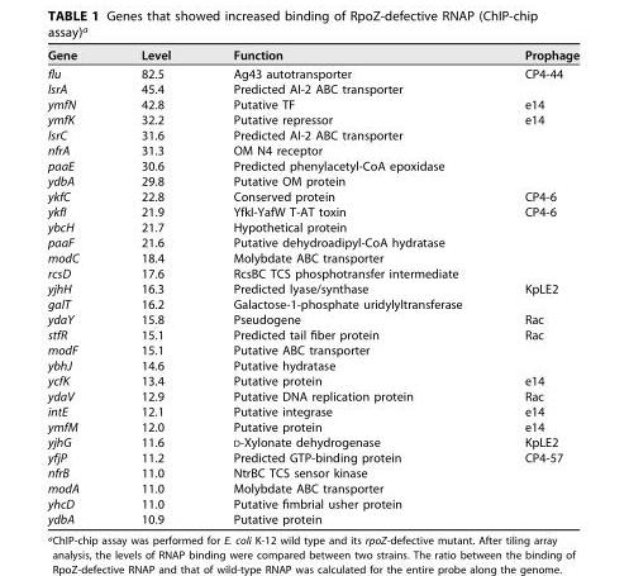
<table><thead><tr><td>Gene</td><td>Level</td><td>Function</td><td>Prophage</td></tr></thead><tbody><tr><td>flu</td><td>82.5</td><td>Ag43 autotransporter</td><td>CP4-44</td></tr><tr><td>lsrA</td><td>45.4</td><td>Predicted AI-2 ABC transporter</td><td></td></tr><tr><td>ymfN</td><td>42.8</td><td>Putative TF</td><td>e14</td></tr><tr><td>ymfK</td><td>32.2</td><td>Putative repressor</td><td>e14</td></tr><tr><td>lsrC</td><td>31.6</td><td>Predicted AI-2 ABC transporter</td><td></td></tr><tr><td>nfrA</td><td>31.3</td><td>OM N4 receptor</td><td></td></tr><tr><td>paaE</td><td>30.6</td><td>Predicted phenylacetyl-CoA epoxidase</td><td></td></tr><tr><td>ydbA</td><td>29.8</td><td>Putative OM protein</td><td></td></tr><tr><td>ykfC</td><td>22.8</td><td>Conserved protein</td><td>CP4-6</td></tr><tr><td>ykfI</td><td>21.9</td><td>YfkI-YafW T-AT toxin</td><td>CP4-6</td></tr><tr><td>ybcH</td><td>21.7</td><td>Hypothetical protein</td><td></td></tr><tr><td>paaF</td><td>21.6</td><td>Putative dehydroadipyl-CoA hydratase</td><td></td></tr><tr><td>modC</td><td>18.4</td><td>Molybdate ABC transporter</td><td></td></tr><tr><td>rcsD</td><td>17.6</td><td>RcsBC TCS phosphotransfer intermediate</td><td></td></tr><tr><td>yjhH</td><td>16.3</td><td>Predicted lyase/synthase</td><td>KpLE2</td></tr><tr><td>galT</td><td>16.2</td><td>Galactose-1-phosphate uridylyltransferase</td><td></td></tr><tr><td>ydaY</td><td>15.8</td><td>Pseudogene</td><td>Rac</td></tr><tr><td>stfR</td><td>15.1</td><td>Predicted tail fiber protein</td><td>Rac</td></tr><tr><td>modF</td><td>15.1</td><td>Putative ABC transporter</td><td></td></tr><tr><td>ybhJ</td><td>14.6</td><td>Putative hydratase</td><td></td></tr><tr><td>ycfK</td><td>13.4</td><td>Putative protein</td><td>e14</td></tr><tr><td>ydaV</td><td>12.9</td><td>Putative DNA replication protein</td><td>Rac</td></tr><tr><td>intE</td><td>12.1</td><td>Putative integrase</td><td>e14</td></tr><tr><td>ymfM</td><td>12.0</td><td>Putative protein</td><td>e14</td></tr><tr><td>yjhG</td><td>11.6</td><td>D-Xylonate dehydrogenase</td><td>KpLE2</td></tr><tr><td>yfjP</td><td>11.2</td><td>Predicted GTP-binding protein</td><td>CP4-57</td></tr><tr><td>nfrB</td><td>11.0</td><td>NtrBC TCS sensor kinase</td><td></td></tr><tr><td>modA</td><td>11.0</td><td>Molybdate ABC transporter</td><td></td></tr><tr><td>yhcD</td><td>11.0</td><td>Putative fimbrial usher protein</td><td></td></tr><tr><td>ydbA</td><td>10.9</td><td>Putative protein</td><td></td></tr></tbody></table>